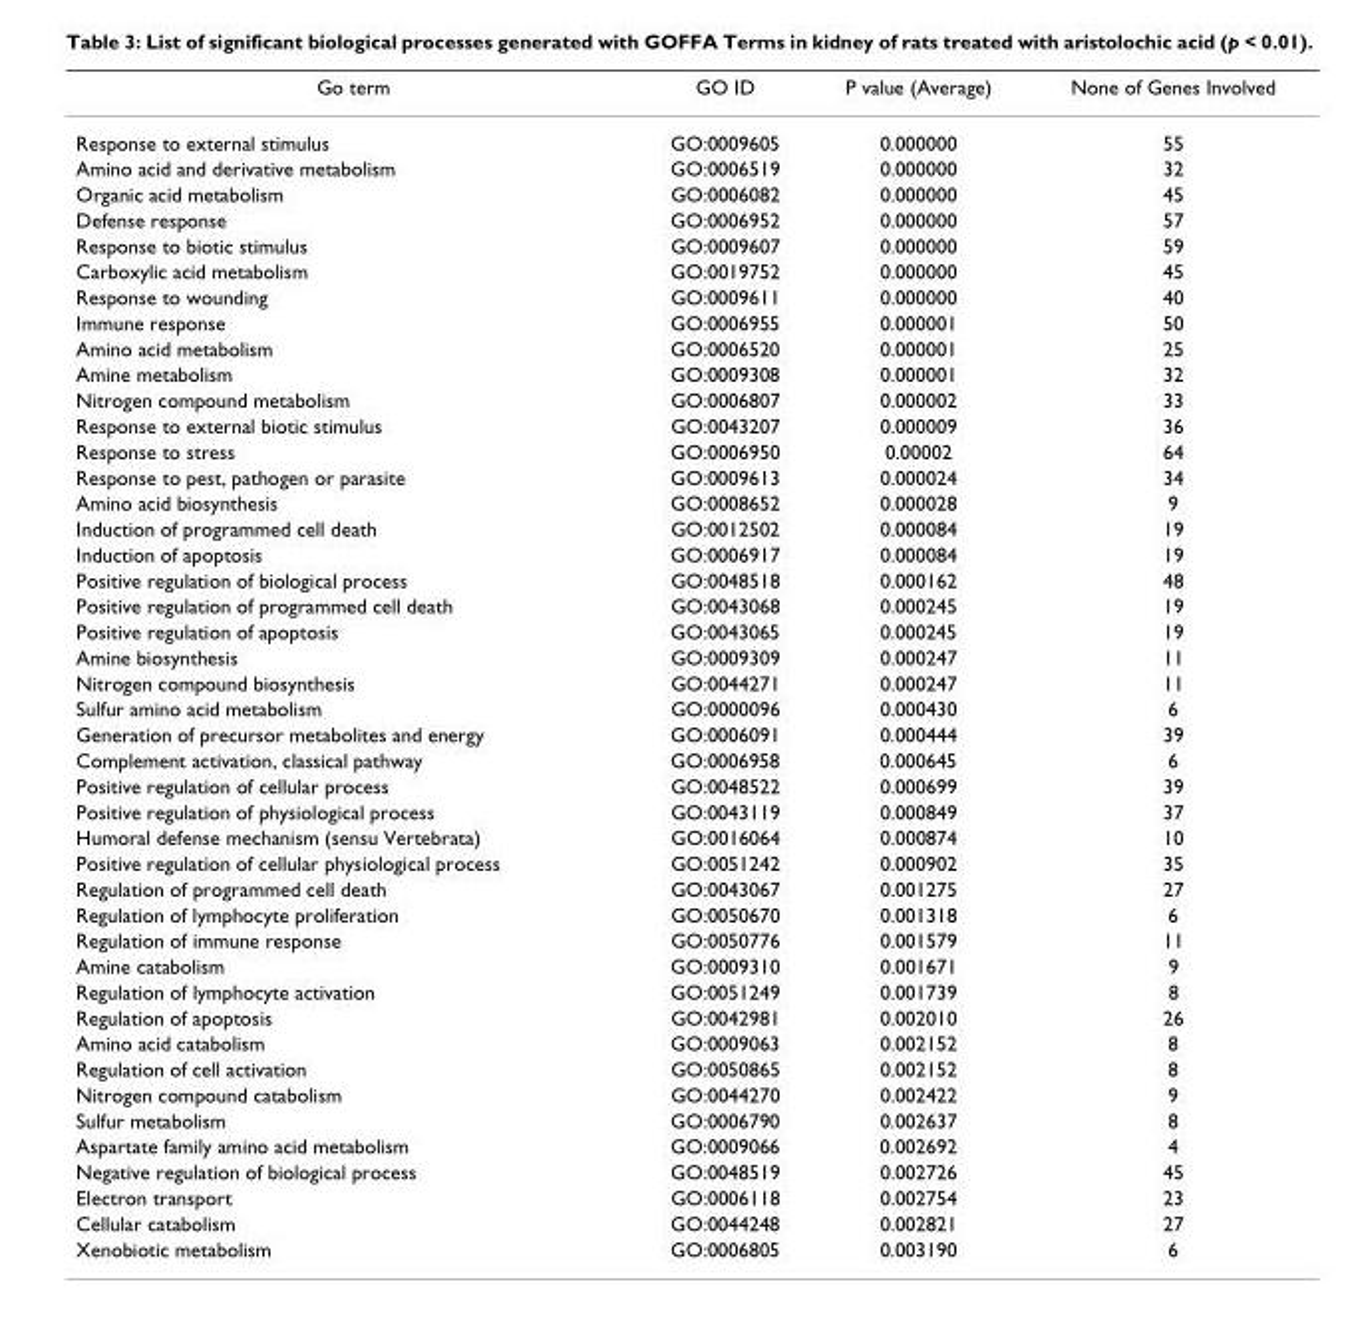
<table><thead><tr><td>Go term</td><td>GO ID</td><td>P value (Average)</td><td>None of Genes Involved</td></tr></thead><tbody><tr><td>Response to external stimulus</td><td>GO:0009605</td><td>0.000000</td><td>55</td></tr><tr><td>Amino acid and derivative metabolism</td><td>GO:0006519</td><td>0.000000</td><td>32</td></tr><tr><td>Organic acid metabolism</td><td>GO:0006082</td><td>0.000000</td><td>45</td></tr><tr><td>Defense response</td><td>GO:0006952</td><td>0.000000</td><td>57</td></tr><tr><td>Response to biotic stimulus</td><td>GO:0009607</td><td>0.000000</td><td>59</td></tr><tr><td>Carboxylic acid metabolism</td><td>GO:0019752</td><td>0.000000</td><td>45</td></tr><tr><td>Response to wounding</td><td>GO:0009611</td><td>0.000000</td><td>40</td></tr><tr><td>Immune response</td><td>GO:0006955</td><td>0.000001</td><td>50</td></tr><tr><td>Amino acid metabolism</td><td>GO:0006520</td><td>0.000001</td><td>25</td></tr><tr><td>Amine metabolism</td><td>GO:0009308</td><td>0.000001</td><td>32</td></tr><tr><td>Nitrogen compound metabolism</td><td>GO:0006807</td><td>0.000002</td><td>33</td></tr><tr><td>Response to external biotic stimulus</td><td>GO:0043207</td><td>0.000009</td><td>36</td></tr><tr><td>Response to stress</td><td>GO:0006950</td><td>0.00002</td><td>64</td></tr><tr><td>Response to pest, pathogen or parasite</td><td>GO:0009613</td><td>0.000024</td><td>34</td></tr><tr><td>Amino acid biosynthesis</td><td>GO:0008652</td><td>0.000028</td><td>9</td></tr><tr><td>Induction of programmed cell death</td><td>GO:0012502</td><td>0.000084</td><td>19</td></tr><tr><td>Induction of apoptosis</td><td>GO:0006917</td><td>0.000084</td><td>19</td></tr><tr><td>Positive regulation of biological process</td><td>GO:0048518</td><td>0.000162</td><td>48</td></tr><tr><td>Positive regulation of programmed cell death</td><td>GO:0043068</td><td>0.000245</td><td>19</td></tr><tr><td>Positive regulation of apoptosis</td><td>GO:0043065</td><td>0.000245</td><td>19</td></tr><tr><td>Amine biosynthesis</td><td>GO:0009309</td><td>0.000247</td><td>11</td></tr><tr><td>Nitrogen compound biosynthesis</td><td>GO:0044271</td><td>0.000247</td><td>11</td></tr><tr><td>Sulfur amino acid metabolism</td><td>GO:0000096</td><td>0.000430</td><td>6</td></tr><tr><td>Generation of precursor metabolites and energy</td><td>GO:0006091</td><td>0.000444</td><td>39</td></tr><tr><td>Complement activation, classical pathway</td><td>GO:0006958</td><td>0.000645</td><td>6</td></tr><tr><td>Positive regulation of cellular process</td><td>GO:0048522</td><td>0.000699</td><td>39</td></tr><tr><td>Positive regulation of physiological process</td><td>GO:0043119</td><td>0.000849</td><td>37</td></tr><tr><td>Humoral defense mechanism (sensu Vertebrata)</td><td>GO:0016064</td><td>0.000874</td><td>10</td></tr><tr><td>Positive regulation of cellular physiological process</td><td>GO:0051242</td><td>0.000902</td><td>35</td></tr><tr><td>Regulation of programmed cell death</td><td>GO:0043067</td><td>0.001275</td><td>27</td></tr><tr><td>Regulation of lymphocyte proliferation</td><td>GO:0050670</td><td>0.001318</td><td>6</td></tr><tr><td>Regulation of immune response</td><td>GO:0050776</td><td>0.001579</td><td>11</td></tr><tr><td>Amine catabolism</td><td>GO:0009310</td><td>0.001671</td><td>9</td></tr><tr><td>Regulation of lymphocyte activation</td><td>GO:0051249</td><td>0.001739</td><td>8</td></tr><tr><td>Regulation of apoptosis</td><td>GO:0042981</td><td>0.002010</td><td>26</td></tr><tr><td>Amino acid catabolism</td><td>GO:0009063</td><td>0.002152</td><td>8</td></tr><tr><td>Regulation of cell activation</td><td>GO:0050865</td><td>0.002152</td><td>8</td></tr><tr><td>Nitrogen compound catabolism</td><td>GO:0044270</td><td>0.002422</td><td>9</td></tr><tr><td>Sulfur metabolism</td><td>GO:0006790</td><td>0.002637</td><td>8</td></tr><tr><td>Aspartate family amino acid metabolism</td><td>GO:0009066</td><td>0.002692</td><td>4</td></tr><tr><td>Negative regulation of biological process</td><td>GO:0048519</td><td>0.002726</td><td>45</td></tr><tr><td>Electron transport</td><td>GO:0006118</td><td>0.002754</td><td>23</td></tr><tr><td>Cellular catabolism</td><td>GO:0044248</td><td>0.002821</td><td>27</td></tr><tr><td>Xenobiotic metabolism</td><td>GO:0006805</td><td>0.003190</td><td>6</td></tr></tbody></table>